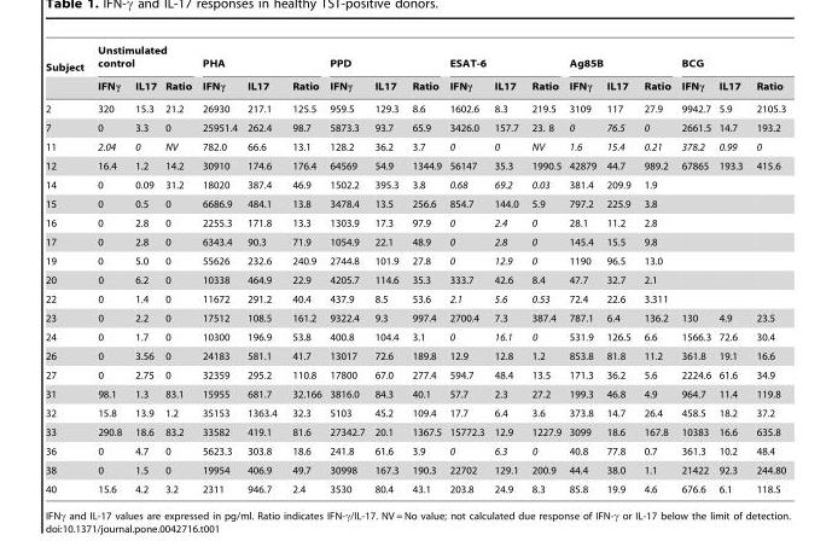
<table><thead><tr><td rowspan="2">Subject</td><td colspan="3">Unstimulated control</td><td colspan="3">PHA</td><td colspan="3">PPD</td><td colspan="3">ESAT-6</td><td colspan="3">Ag85B</td><td colspan="3">BCG</td></tr><tr><td>IFNγ</td><td>IL17</td><td>Ratio</td><td>IFNγ</td><td>IL17</td><td>Ratio</td><td>IFNγ</td><td>IL17</td><td>Ratio</td><td>IFNγ</td><td>IL17</td><td>Ratio</td><td>IFNγ</td><td>IL17</td><td>Ratio</td><td>IFNγ</td><td>IL17</td><td>Ratio</td></tr></thead><tbody><tr><td>2</td><td>320</td><td>15.3</td><td>21.2</td><td>26930</td><td>217.1</td><td>125.5</td><td>959.5</td><td>129.3</td><td>8.6</td><td>1602.6</td><td>8.3</td><td>219.5</td><td>3109</td><td>117</td><td>27.9</td><td>9942.7</td><td>5.9</td><td>2105.3</td></tr><tr><td>7</td><td>0</td><td>3.3</td><td>0</td><td>25951.4</td><td>262.4</td><td>98.7</td><td>5873.3</td><td>93.7</td><td>65.9</td><td>3426.0</td><td>157.7</td><td>23. 8</td><td>0</td><td>76.5</td><td>0</td><td>2661.5</td><td>14.7</td><td>193.2</td></tr><tr><td>11</td><td>2.04</td><td>0</td><td>NV</td><td>782.0</td><td>66.6</td><td>13.1</td><td>128.2</td><td>36.2</td><td>3.7</td><td>0</td><td>0</td><td>NV</td><td>1.6</td><td>15.4</td><td>0.21</td><td>378.2</td><td>0.99</td><td>0</td></tr><tr><td>12</td><td>16.4</td><td>1.2</td><td>14.2</td><td>30910</td><td>174.6</td><td>176.4</td><td>64569</td><td>54.9</td><td>1344.9</td><td>56147</td><td>35.3</td><td>1990.5</td><td>42879</td><td>44.7</td><td>989.2</td><td>67865</td><td>193.3</td><td>415.6</td></tr><tr><td>14</td><td>0</td><td>0.09</td><td>31.2</td><td>18020</td><td>387.4</td><td>46.9</td><td>1502.2</td><td>395.3</td><td>3.8</td><td>0.68</td><td>69.2</td><td>0.03</td><td>381.4</td><td>209.9</td><td>1.9</td><td></td><td></td><td></td></tr><tr><td>15</td><td>0</td><td>0.5</td><td>0</td><td>6686.9</td><td>484.1</td><td>13.8</td><td>3478.4</td><td>13.5</td><td>256.6</td><td>854.7</td><td>144.0</td><td>5.9</td><td>797.2</td><td>225.9</td><td>3.8</td><td></td><td></td><td></td></tr><tr><td>16</td><td>0</td><td>2.8</td><td>0</td><td>2255.3</td><td>171.8</td><td>13.3</td><td>1303.9</td><td>17.3</td><td>97.9</td><td>0</td><td>2.4</td><td>0</td><td>28.1</td><td>11.2</td><td>2.8</td><td></td><td></td><td></td></tr><tr><td>17</td><td>0</td><td>2.8</td><td>0</td><td>6343.4</td><td>90.3</td><td>71.9</td><td>1054.9</td><td>22.1</td><td>48.9</td><td>0</td><td>2.8</td><td>0</td><td>145.4</td><td>15.5</td><td>9.8</td><td></td><td></td><td></td></tr><tr><td>19</td><td>0</td><td>5.0</td><td>0</td><td>55626</td><td>232.6</td><td>240.9</td><td>2744.8</td><td>101.9</td><td>27.8</td><td>0</td><td>12.9</td><td>0</td><td>1190</td><td>96.5</td><td>13.0</td><td></td><td></td><td></td></tr><tr><td>20</td><td>0</td><td>6.2</td><td>0</td><td>10338</td><td>464.9</td><td>22.9</td><td>4205.7</td><td>114.6</td><td>35.3</td><td>333.7</td><td>42.6</td><td>8.4</td><td>47.7</td><td>32.7</td><td>2.1</td><td></td><td></td><td></td></tr><tr><td>22</td><td>0</td><td>1.4</td><td>0</td><td>11672</td><td>291.2</td><td>40.4</td><td>437.9</td><td>8.5</td><td>53.6</td><td>2.1</td><td>5.6</td><td>0.53</td><td>72.4</td><td>22.6</td><td>3.311</td><td></td><td></td><td></td></tr><tr><td>23</td><td>0</td><td>2.2</td><td>0</td><td>17512</td><td>108.5</td><td>161.2</td><td>9322.4</td><td>9.3</td><td>997.4</td><td>2700.4</td><td>7.3</td><td>387.4</td><td>787.1</td><td>6.4</td><td>136.2</td><td>130</td><td>4.9</td><td>23.5</td></tr><tr><td>24</td><td>0</td><td>1.7</td><td>0</td><td>10300</td><td>196.9</td><td>53.8</td><td>400.8</td><td>104.4</td><td>3.1</td><td>0</td><td>16.1</td><td>0</td><td>531.9</td><td>126.5</td><td>6.6</td><td>1566.3</td><td>72.6</td><td>30.4</td></tr><tr><td>26</td><td>0</td><td>3.56</td><td>0</td><td>24183</td><td>581.1</td><td>41.7</td><td>13017</td><td>72.6</td><td>189.8</td><td>12.9</td><td>12.8</td><td>1.2</td><td>853.8</td><td>81.8</td><td>11.2</td><td>361.8</td><td>19.1</td><td>16.6</td></tr><tr><td>27</td><td>0</td><td>2.75</td><td>0</td><td>32359</td><td>295.2</td><td>110.8</td><td>17800</td><td>67.0</td><td>277.4</td><td>594.7</td><td>48.4</td><td>13.5</td><td>171.3</td><td>36.2</td><td>5.6</td><td>2224.6</td><td>61.6</td><td>34.9</td></tr><tr><td>31</td><td>98.1</td><td>1.3</td><td>83.1</td><td>15955</td><td>681.7</td><td>32.166</td><td>3816.0</td><td>84.3</td><td>40.1</td><td>57.7</td><td>2.3</td><td>27.2</td><td>199.3</td><td>46.8</td><td>4.9</td><td>964.7</td><td>11.4</td><td>119.8</td></tr><tr><td>32</td><td>15.8</td><td>13.9</td><td>1.2</td><td>35153</td><td>1363.4</td><td>32.3</td><td>5103</td><td>45.2</td><td>109.4</td><td>17.7</td><td>6.4</td><td>3.6</td><td>373.8</td><td>14.7</td><td>26.4</td><td>458.5</td><td>18.2</td><td>37.2</td></tr><tr><td>33</td><td>290.8</td><td>18.6</td><td>83.2</td><td>33582</td><td>419.1</td><td>81.6</td><td>27342.7</td><td>20.1</td><td>1367.5</td><td>15772.3</td><td>12.9</td><td>1227.9</td><td>3099</td><td>18.6</td><td>167.8</td><td>10383</td><td>16.6</td><td>635.8</td></tr><tr><td>36</td><td>0</td><td>4.7</td><td>0</td><td>5623.3</td><td>303.8</td><td>18.6</td><td>241.8</td><td>61.6</td><td>3.9</td><td>0</td><td>6.3</td><td>0</td><td>40.8</td><td>77.8</td><td>0.7</td><td>361.3</td><td>10.2</td><td>48.4</td></tr><tr><td>38</td><td>0</td><td>1.5</td><td>0</td><td>19954</td><td>406.9</td><td>49.7</td><td>30998</td><td>167.3</td><td>190.3</td><td>22702</td><td>129.1</td><td>200.9</td><td>44.4</td><td>38.0</td><td>1.1</td><td>21422</td><td>92.3</td><td>244.80</td></tr><tr><td>40</td><td>15.6</td><td>4.2</td><td>3.2</td><td>2311</td><td>946.7</td><td>2.4</td><td>3530</td><td>80.4</td><td>43.1</td><td>203.8</td><td>24.9</td><td>8.3</td><td>85.8</td><td>19.9</td><td>4.6</td><td>676.6</td><td>6.1</td><td>118.5</td></tr></tbody></table>